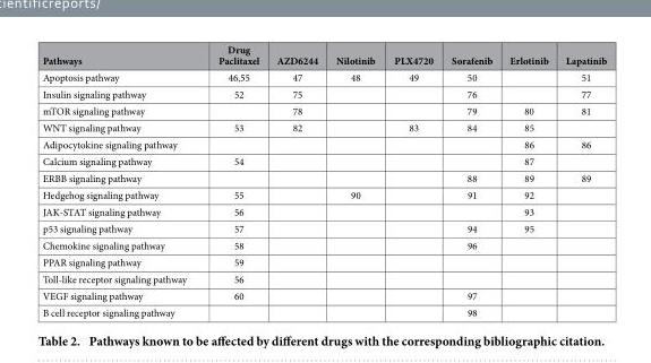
<table><thead><tr><td>Pathways</td><td>Drug Paclitaxel</td><td>AZD6244</td><td>Nilotinib</td><td>PLX4720</td><td>Sorafenib</td><td>Erlotinib</td><td>Lapatinib</td></tr></thead><tbody><tr><td>Apoptosis pathway</td><td>46,55</td><td>47</td><td>48</td><td>49</td><td>50</td><td></td><td>51</td></tr><tr><td>Insulin signaling pathway</td><td>52</td><td>75</td><td></td><td></td><td>76</td><td></td><td>77</td></tr><tr><td>mTOR signaling pathway</td><td></td><td>78</td><td></td><td></td><td>79</td><td>80</td><td>81</td></tr><tr><td>WNT signaling pathway</td><td>53</td><td>82</td><td></td><td>83</td><td>84</td><td>85</td><td></td></tr><tr><td>Adipocytokine signaling pathway</td><td></td><td></td><td></td><td></td><td></td><td>86</td><td>86</td></tr><tr><td>Calcium signaling pathway</td><td>54</td><td></td><td></td><td></td><td></td><td>87</td><td></td></tr><tr><td>ERBB signaling pathway</td><td></td><td></td><td></td><td></td><td>88</td><td>89</td><td>89</td></tr><tr><td>Hedgehog signaling pathway</td><td>55</td><td></td><td>90</td><td></td><td>91</td><td>92</td><td></td></tr><tr><td>JAK-STAT signaling pathway</td><td>56</td><td></td><td></td><td></td><td></td><td>93</td><td></td></tr><tr><td>p53 signaling pathway</td><td>57</td><td></td><td></td><td></td><td>94</td><td>95</td><td></td></tr><tr><td>Chemokine signaling pathway</td><td>58</td><td></td><td></td><td></td><td>96</td><td></td><td></td></tr><tr><td>PPAR signaling pathway</td><td>59</td><td></td><td></td><td></td><td></td><td></td><td></td></tr><tr><td>Toll-like receptor signaling pathway</td><td>56</td><td></td><td></td><td></td><td></td><td></td><td></td></tr><tr><td>VEGF signaling pathway</td><td>60</td><td></td><td></td><td></td><td>97</td><td></td><td></td></tr><tr><td>B cell receptor signaling pathway</td><td></td><td></td><td></td><td></td><td>98</td><td></td><td></td></tr></tbody></table>